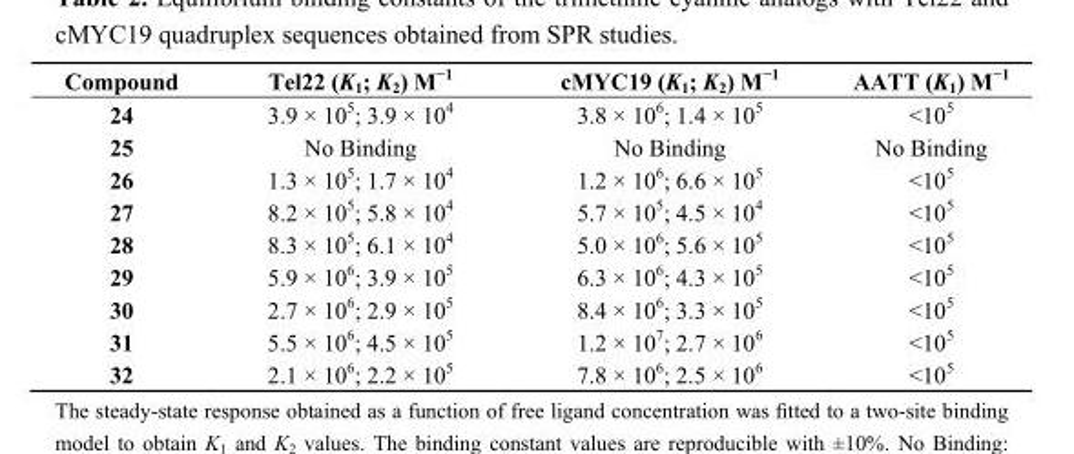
<table><thead><tr><td>Compound</td><td>Tel22 (K<sub>1</sub>; K<sub>2</sub>) M<sup>−1</sup></td><td>cMYC19 (K<sub>1</sub>; K<sub>2</sub>) M<sup>−1</sup></td><td>AATT (K<sub>1</sub>) M<sup>−1</sup></td></tr></thead><tbody><tr><td>24</td><td>3.9 × 10<sup>5</sup>; 3.9 × 10<sup>4</sup></td><td>3.8 × 10<sup>6</sup>; 1.4 × 10<sup>5</sup></td><td>&lt;10<sup>5</sup></td></tr><tr><td>25</td><td>No Binding</td><td>No Binding</td><td>No Binding</td></tr><tr><td>26</td><td>1.3 × 10<sup>5</sup>; 1.7 × 10<sup>4</sup></td><td>1.2 × 10<sup>6</sup>; 6.6 × 10<sup>5</sup></td><td>&lt;10<sup>5</sup></td></tr><tr><td>27</td><td>8.2 × 10<sup>5</sup>; 5.8 × 10<sup>4</sup></td><td>5.7 × 10<sup>5</sup>; 4.5 × 10<sup>4</sup></td><td>&lt;10<sup>5</sup></td></tr><tr><td>28</td><td>8.3 × 10<sup>5</sup>; 6.1 × 10<sup>4</sup></td><td>5.0 × 10<sup>6</sup>; 5.6 × 10<sup>5</sup></td><td>&lt;10<sup>5</sup></td></tr><tr><td>29</td><td>5.9 × 10<sup>6</sup>; 3.9 × 10<sup>5</sup></td><td>6.3 × 10<sup>6</sup>; 4.3 × 10<sup>5</sup></td><td>&lt;10<sup>5</sup></td></tr><tr><td>30</td><td>2.7 × 10<sup>6</sup>; 2.9 × 10<sup>5</sup></td><td>8.4 × 10<sup>6</sup>; 3.3 × 10<sup>5</sup></td><td>&lt;10<sup>5</sup></td></tr><tr><td>31</td><td>5.5 × 10<sup>6</sup>; 4.5 × 10<sup>5</sup></td><td>1.2 × 10<sup>7</sup>; 2.7 × 10<sup>6</sup></td><td>&lt;10<sup>5</sup></td></tr><tr><td>32</td><td>2.1 × 10<sup>6</sup>; 2.2 × 10<sup>5</sup></td><td>7.8 × 10<sup>6</sup>; 2.5 × 10<sup>6</sup></td><td>&lt;10<sup>5</sup></td></tr></tbody></table>